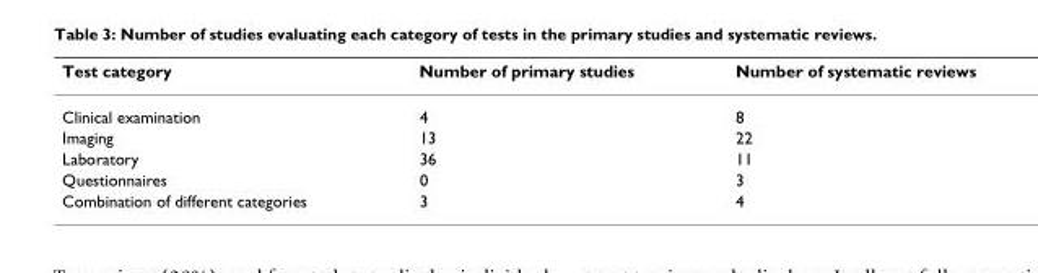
<table><thead><tr><td>Test category</td><td>Number of primary studies</td><td>Number of systematic reviews</td></tr></thead><tbody><tr><td>Clinical examination</td><td>4</td><td>8</td></tr><tr><td>Imaging</td><td>13</td><td>22</td></tr><tr><td>Laboratory</td><td>36</td><td>11</td></tr><tr><td>Questionnaires</td><td>0</td><td>3</td></tr><tr><td>Combination of different categories</td><td>3</td><td>4</td></tr></tbody></table>